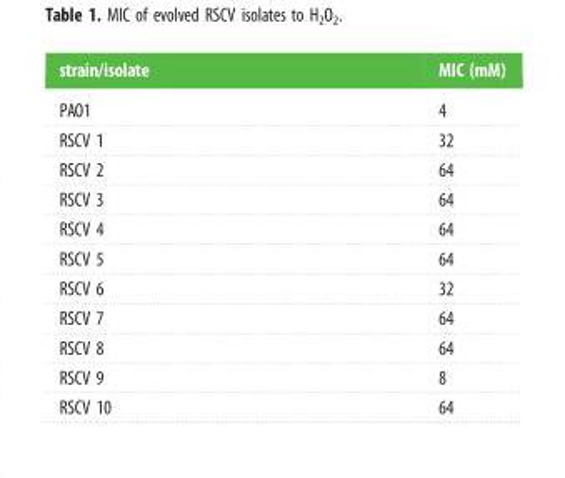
<table><thead><tr><td>strain/isolate</td><td>MIC (mM)</td></tr></thead><tbody><tr><td>PAO1</td><td>4</td></tr><tr><td>RSCV 1</td><td>32</td></tr><tr><td>RSCV 2</td><td>64</td></tr><tr><td>RSCV 3</td><td>64</td></tr><tr><td>RSCV 4</td><td>64</td></tr><tr><td>RSCV 5</td><td>64</td></tr><tr><td>RSCV 6</td><td>32</td></tr><tr><td>RSCV 7</td><td>64</td></tr><tr><td>RSCV 8</td><td>64</td></tr><tr><td>RSCV 9</td><td>8</td></tr><tr><td>RSCV 10</td><td>64</td></tr></tbody></table>